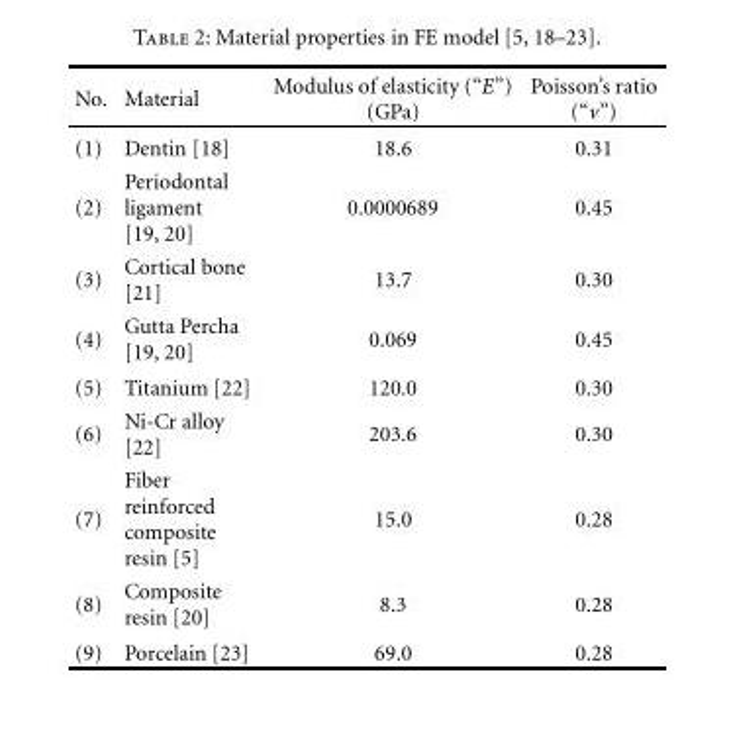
<table><thead><tr><td>No.</td><td>Material</td><td>Modulus of elasticity (“E”) (GPa)</td><td>Poisson’s ratio (“v”)</td></tr></thead><tbody><tr><td>(1)</td><td>Dentin [18]</td><td>18.6</td><td>0.31</td></tr><tr><td>(2)</td><td>Periodontal ligament [19, 20]</td><td>0.0000689</td><td>0.45</td></tr><tr><td>(3)</td><td>Cortical bone [21]</td><td>13.7</td><td>0.30</td></tr><tr><td>(4)</td><td>Gutta Percha [19, 20]</td><td>0.069</td><td>0.45</td></tr><tr><td>(5)</td><td>Titanium [22]</td><td>120.0</td><td>0.30</td></tr><tr><td>(6)</td><td>Ni-Cr alloy [22]</td><td>203.6</td><td>0.30</td></tr><tr><td>(7)</td><td>Fiber reinforced composite resin [5]</td><td>15.0</td><td>0.28</td></tr><tr><td>(8)</td><td>Composite resin [20]</td><td>8.3</td><td>0.28</td></tr><tr><td>(9)</td><td>Porcelain [23]</td><td>69.0</td><td>0.28</td></tr></tbody></table>